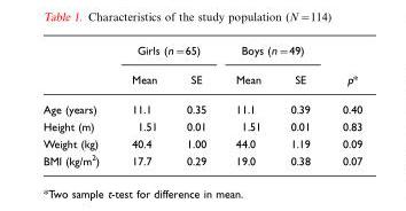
<table><thead><tr><td rowspan="2"></td><td colspan="2">Girls (n=65)</td><td colspan="2">Boys (n=49)</td><td rowspan="2">p*</td></tr><tr><td>Mean</td><td>SE</td><td>Mean</td><td>SE</td></tr></thead><tbody><tr><td>Age (years)</td><td>11.1</td><td>0.35</td><td>11.1</td><td>0.39</td><td>0.40</td></tr><tr><td>Height (m)</td><td>1.51</td><td>0.01</td><td>1.51</td><td>0.01</td><td>0.83</td></tr><tr><td>Weight (kg)</td><td>40.4</td><td>1.00</td><td>44.0</td><td>1.19</td><td>0.09</td></tr><tr><td>BMI (kg/m<sup>2</sup>)</td><td>17.7</td><td>0.29</td><td>19.0</td><td>0.38</td><td>0.07</td></tr></tbody></table>